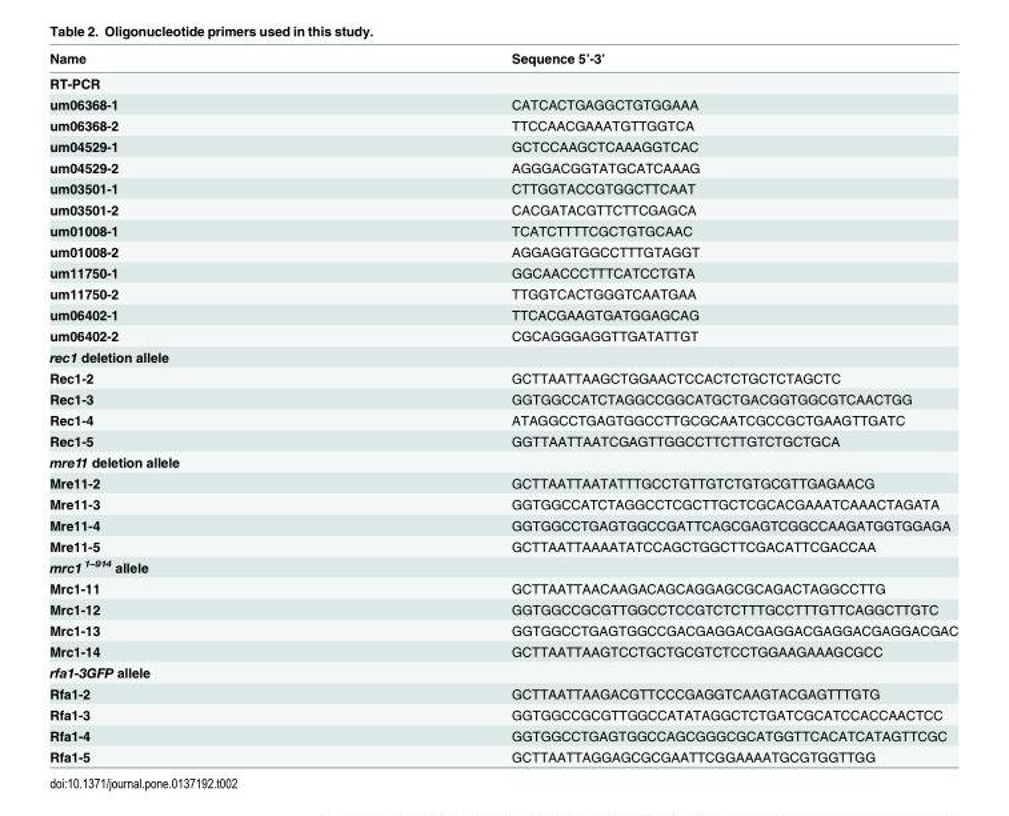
<table><thead><tr><td>Name</td><td>Sequence 5’-3’</td></tr></thead><tbody><tr><td colspan="2">RT-PCR</td></tr><tr><td>um06368-1</td><td>CATCACTGAGGCTGTGGAAA</td></tr><tr><td>um06368-2</td><td>TTCCAACGAAATGTTGGTCA</td></tr><tr><td>um04529-1</td><td>GCTCCAAGCTCAAAGGTCAC</td></tr><tr><td>um04529-2</td><td>AGGGACGGTATGCATCAAAG</td></tr><tr><td>um03501-1</td><td>CTTGGTACCGTGGCTTCAAT</td></tr><tr><td>um03501-2</td><td>CACGATACGTTCTTCGAGCA</td></tr><tr><td>um01008-1</td><td>TCATCTTTTCGCTGTGCAAC</td></tr><tr><td>um01008-2</td><td>AGGAGGTGGCCTTTGTAGGT</td></tr><tr><td>um11750-1</td><td>GGCAACCCTTTCATCCTGTA</td></tr><tr><td>um11750-2</td><td>TTGGTCACTGGGTCAATGAA</td></tr><tr><td>um06402-1</td><td>TTCACGAAGTGATGGAGCAG</td></tr><tr><td>um06402-2</td><td>CGCAGGGAGGTTGATATTGT</td></tr><tr><td colspan="2">rec1 deletion allele</td></tr><tr><td>Rec1-2</td><td>GCTTAATTAAGCTGGAACTCCACTCTGCTCTAGCTC</td></tr><tr><td>Rec1-3</td><td>GGTGGCCATCTAGGCCGGCATGCTGACGGTGGCGTCAACTGG</td></tr><tr><td>Rec1-4</td><td>ATAGGCCTGAGTGGCCTTGCGCAATCGCCGCTGAAGTTGATC</td></tr><tr><td>Rec1-5</td><td>GGTTAATTAATCGAGTTGGCCTTCTTGTCTGCTGCA</td></tr><tr><td colspan="2">mre11 deletion allele</td></tr><tr><td>Mre11-2</td><td>GCTTAATTAATATTTGCCTGTTGTCTGTGCGTTGAGAACG</td></tr><tr><td>Mre11-3</td><td>GGTGGCCATCTAGGCCTCGCTTGCTCGCACGAAATCAAACTAGATA</td></tr><tr><td>Mre11-4</td><td>GGTGGCCTGAGTGGCCGATTCAGCGAGTCGGCCAAGATGGTGGAGA</td></tr><tr><td>Mre11-5</td><td>GCTTAATTAAAATATCCAGCTGGCTTCGACATTCGACCAA</td></tr><tr><td colspan="2">mrc1 <sup>1–914</sup> allele</td></tr><tr><td>Mrc1-11</td><td>GCTTAATTAACAAGACAGCAGGAGCGCAGACTAGGCCTTG</td></tr><tr><td>Mrc1-12</td><td>GGTGGCCGCGTTGGCCTCCGTCTCTTTGCCTTTGTTCAGGCTTGTC</td></tr><tr><td>Mrc1-13</td><td>GGTGGCCTGAGTGGCCGACGAGGACGAGGACGAGGACGAGGACGAC</td></tr><tr><td>Mrc1-14</td><td>GCTTAATTAAGTCCTGCTGCGTCTCCTGGAAGAAAGCGCC</td></tr><tr><td colspan="2">rfa1-3GFP allele</td></tr><tr><td>Rfa1-2</td><td>GCTTAATTAAGACGTTCCCGAGGTCAAGTACGAGTTTGTG</td></tr><tr><td>Rfa1-3</td><td>GGTGGCCGCGTTGGCCATATAGGCTCTGATCGCATCCACCAACTCC</td></tr><tr><td>Rfa1-4</td><td>GGTGGCCTGAGTGGCCAGCGGGCGCATGGTTCACATCATAGTTCGC</td></tr><tr><td>Rfa1-5</td><td>GCTTAATTAGGAGCGCGAATTCGGAAAATGCGTGGTTGG</td></tr></tbody></table>